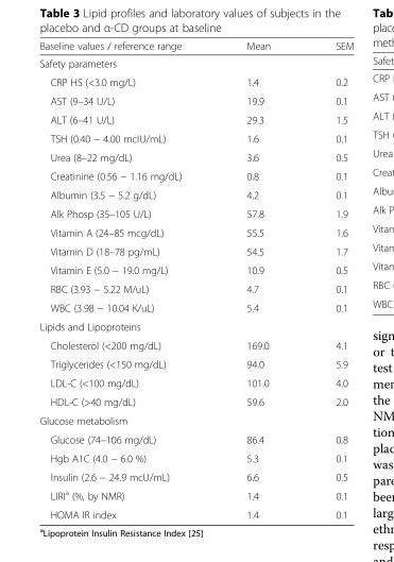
<table><thead><tr><td>Baseline values / reference range</td><td>Mean</td><td>SEM</td></tr></thead><tbody><tr><td colspan="3">Safety parameters</td></tr><tr><td>CRP HS (&lt;3.0 mg/L)</td><td>1.4</td><td>0.2</td></tr><tr><td>AST (9–34 U/L)</td><td>19.9</td><td>0.1</td></tr><tr><td>ALT (6–41 U/L)</td><td>29.3</td><td>1.5</td></tr><tr><td>TSH (0.40 − 4.00 mcIU/mL)</td><td>1.6</td><td>0.1</td></tr><tr><td>Urea (8–22 mg/dL)</td><td>3.6</td><td>0.5</td></tr><tr><td>Creatinine (0.56 − 1.16 mg/dL)</td><td>0.8</td><td>0.1</td></tr><tr><td>Albumin (3.5 − 5.2 g/dL)</td><td>4.2</td><td>0.1</td></tr><tr><td>Alk Phosp (35–105 U/L)</td><td>57.8</td><td>1.9</td></tr><tr><td>Vitamin A (24–85 mcg/dL)</td><td>55.5</td><td>1.6</td></tr><tr><td>Vitamin D (18–78 pg/mL)</td><td>54.5</td><td>1.7</td></tr><tr><td>Vitamin E (5.0 − 19.0 mg/L)</td><td>10.9</td><td>0.5</td></tr><tr><td>RBC (3.93 − 5.22 M/uL)</td><td>4.7</td><td>0.1</td></tr><tr><td>WBC (3.98 − 10.04 K/uL)</td><td>5.4</td><td>0.1</td></tr><tr><td colspan="3">Lipids and Lipoproteins</td></tr><tr><td>Cholesterol (&lt;200 mg/dL)</td><td>169.0</td><td>4.1</td></tr><tr><td>Triglycerides (&lt;150 mg/dL)</td><td>94.0</td><td>5.9</td></tr><tr><td>LDL-C (&lt;100 mg/dL)</td><td>101.0</td><td>4.0</td></tr><tr><td>HDL-C (&gt;40 mg/dL)</td><td>59.6</td><td>2.0</td></tr><tr><td colspan="3">Glucose metabolism</td></tr><tr><td>Glucose (74–106 mg/dL)</td><td>86.4</td><td>0.8</td></tr><tr><td>Hgb A1C (4.0 − 6.0 %)</td><td>5.3</td><td>0.1</td></tr><tr><td>Insulin (2.6 − 24.9 mcU/mL)</td><td>6.6</td><td>0.5</td></tr><tr><td>LIRI<sup>a</sup> (%, by NMR)</td><td>1.4</td><td>0.1</td></tr><tr><td>HOMA IR index</td><td>1.4</td><td>0.1</td></tr></tbody></table>